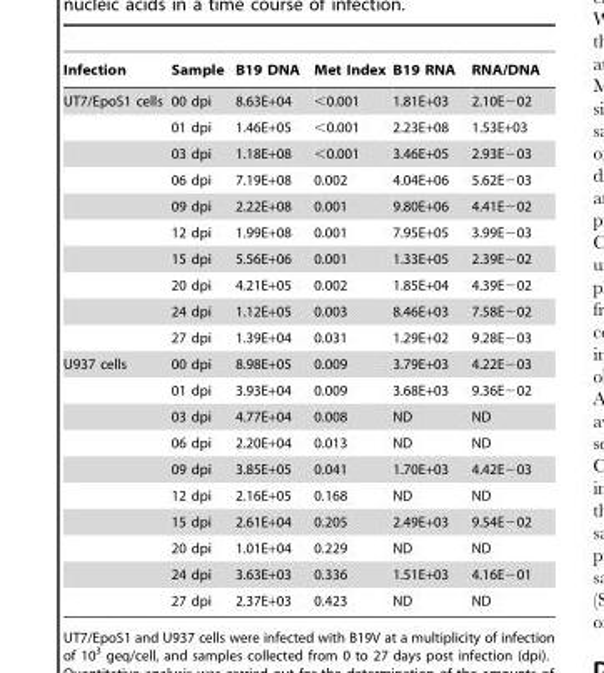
<table><thead><tr><td>Infection</td><td>Sample</td><td>B19 DNA</td><td>Met Index</td><td>B19 RNA</td><td>RNA/DNA</td></tr></thead><tbody><tr><td rowspan="10">UT7/EpoS1 cells</td><td>00 dpi</td><td>8.63E+04</td><td>&lt;0.001</td><td>1.81E+03</td><td>2.10E−02</td></tr><tr><td>01 dpi</td><td>1.46E+05</td><td>&lt;0.001</td><td>2.23E+08</td><td>1.53E+03</td></tr><tr><td>03 dpi</td><td>1.18E+08</td><td>&lt;0.001</td><td>3.46E+05</td><td>2.93E−03</td></tr><tr><td>06 dpi</td><td>7.19E+08</td><td>0.002</td><td>4.04E+06</td><td>5.62E−03</td></tr><tr><td>09 dpi</td><td>2.22E+08</td><td>0.001</td><td>9.80E+06</td><td>4.41E−02</td></tr><tr><td>12 dpi</td><td>1.99E+08</td><td>0.001</td><td>7.95E+05</td><td>3.99E−03</td></tr><tr><td>15 dpi</td><td>5.56E+06</td><td>0.001</td><td>1.33E+05</td><td>2.39E−02</td></tr><tr><td>20 dpi</td><td>4.21E+05</td><td>0.002</td><td>1.85E+04</td><td>4.39E−02</td></tr><tr><td>24 dpi</td><td>1.12E+05</td><td>0.003</td><td>8.46E+03</td><td>7.58E−02</td></tr><tr><td>27 dpi</td><td>1.39E+04</td><td>0.031</td><td>1.29E+02</td><td>9.28E−03</td></tr><tr><td rowspan="10">U937 cells</td><td>00 dpi</td><td>8.98E+05</td><td>0.009</td><td>3.79E+03</td><td>4.22E−03</td></tr><tr><td>01 dpi</td><td>3.93E+04</td><td>0.009</td><td>3.68E+03</td><td>9.36E−02</td></tr><tr><td>03 dpi</td><td>4.77E+04</td><td>0.008</td><td>ND</td><td>ND</td></tr><tr><td>06 dpi</td><td>2.20E+04</td><td>0.013</td><td>ND</td><td>ND</td></tr><tr><td>09 dpi</td><td>3.85E+05</td><td>0.041</td><td>1.70E+03</td><td>4.42E−03</td></tr><tr><td>12 dpi</td><td>2.16E+05</td><td>0.168</td><td>ND</td><td>ND</td></tr><tr><td>15 dpi</td><td>2.61E+04</td><td>0.205</td><td>2.49E+03</td><td>9.54E−02</td></tr><tr><td>20 dpi</td><td>1.01E+04</td><td>0.229</td><td>ND</td><td>ND</td></tr><tr><td>24 dpi</td><td>3.63E+03</td><td>0.336</td><td>1.51E+03</td><td>4.16E−01</td></tr><tr><td>27 dpi</td><td>2.37E+03</td><td>0.423</td><td>ND</td><td>ND</td></tr></tbody></table>